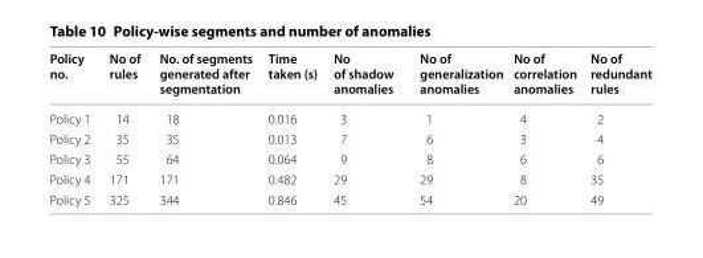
<table><thead><tr><td>Policy no.</td><td>No of rules</td><td>No. of segments generated after segmentation</td><td>Time taken (s)</td><td>No of shadow anomalies</td><td>No of generalization anomalies</td><td>No of correlation anomalies</td><td>No of redundant rules</td></tr></thead><tbody><tr><td>Policy 1</td><td>14</td><td>18</td><td>0.016</td><td>3</td><td>1</td><td>4</td><td>2</td></tr><tr><td>Policy 2</td><td>35</td><td>35</td><td>0.013</td><td>7</td><td>6</td><td>3</td><td>4</td></tr><tr><td>Policy 3</td><td>55</td><td>64</td><td>0.064</td><td>9</td><td>8</td><td>6</td><td>6</td></tr><tr><td>Policy 4</td><td>171</td><td>171</td><td>0.482</td><td>29</td><td>29</td><td>8</td><td>35</td></tr><tr><td>Policy 5</td><td>325</td><td>344</td><td>0.846</td><td>45</td><td>54</td><td>20</td><td>49</td></tr></tbody></table>